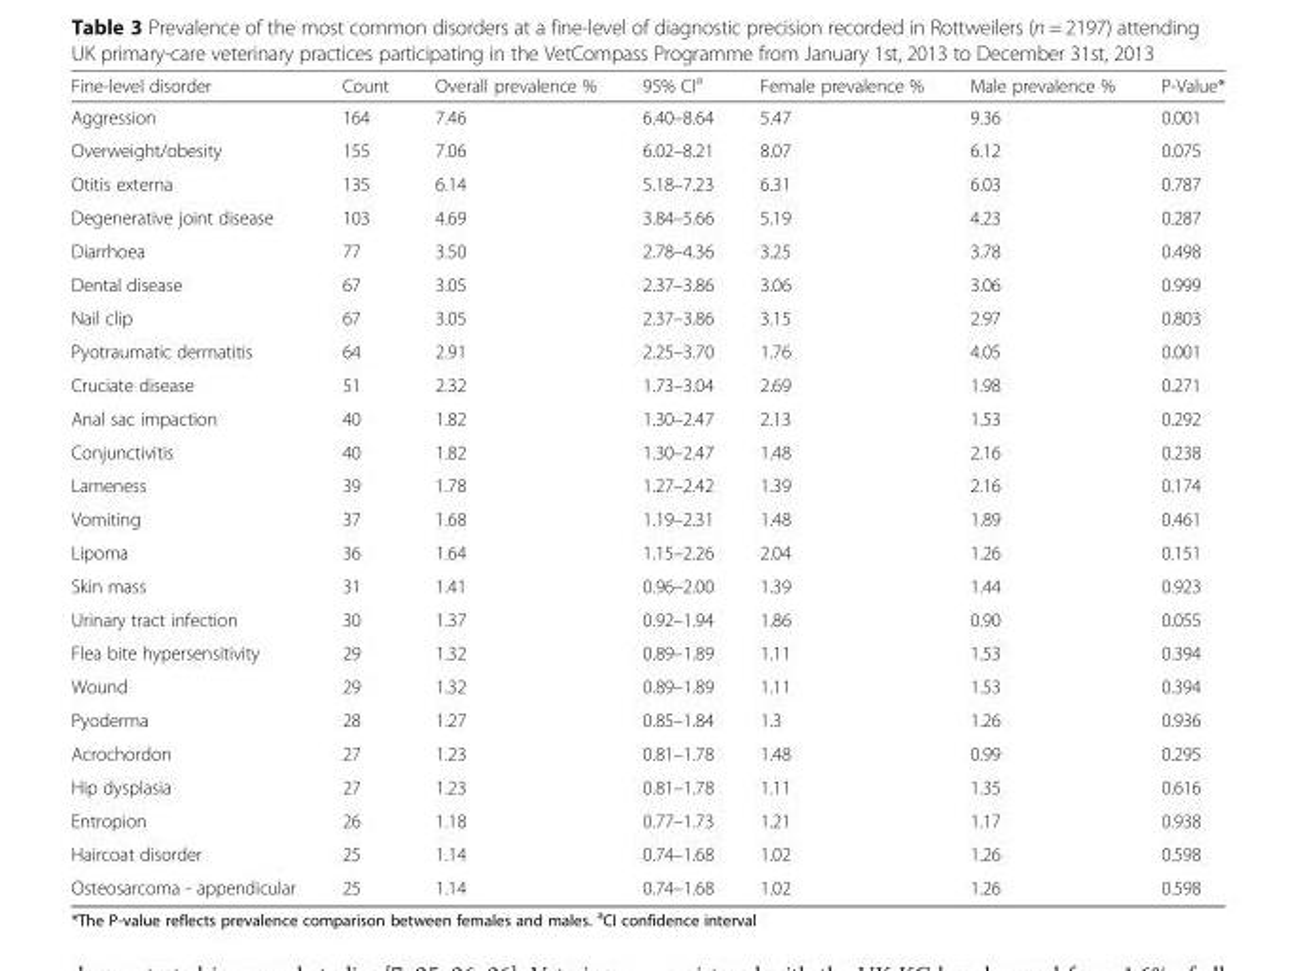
<table><thead><tr><td>Fine-level disorder</td><td>Count</td><td>Overall prevalence %</td><td>95% CI<sup>a</sup></td><td>Female prevalence %</td><td>Male prevalence %</td><td>P-Value*</td></tr></thead><tbody><tr><td>Aggression</td><td>164</td><td>7.46</td><td>6.40–8.64</td><td>5.47</td><td>9.36</td><td>0.001</td></tr><tr><td>Overweight/obesity</td><td>155</td><td>7.06</td><td>6.02–8.21</td><td>8.07</td><td>6.12</td><td>0.075</td></tr><tr><td>Otitis externa</td><td>135</td><td>6.14</td><td>5.18–7.23</td><td>6.31</td><td>6.03</td><td>0.787</td></tr><tr><td>Degenerative joint disease</td><td>103</td><td>4.69</td><td>3.84–5.66</td><td>5.19</td><td>4.23</td><td>0.287</td></tr><tr><td>Diarrhoea</td><td>77</td><td>3.50</td><td>2.78–4.36</td><td>3.25</td><td>3.78</td><td>0.498</td></tr><tr><td>Dental disease</td><td>67</td><td>3.05</td><td>2.37–3.86</td><td>3.06</td><td>3.06</td><td>0.999</td></tr><tr><td>Nail clip</td><td>67</td><td>3.05</td><td>2.37–3.86</td><td>3.15</td><td>2.97</td><td>0.803</td></tr><tr><td>Pyotraumatic dermatitis</td><td>64</td><td>2.91</td><td>2.25–3.70</td><td>1.76</td><td>4.05</td><td>0.001</td></tr><tr><td>Cruciate disease</td><td>51</td><td>2.32</td><td>1.73–3.04</td><td>2.69</td><td>1.98</td><td>0.271</td></tr><tr><td>Anal sac impaction</td><td>40</td><td>1.82</td><td>1.30–2.47</td><td>2.13</td><td>1.53</td><td>0.292</td></tr><tr><td>Conjunctivitis</td><td>40</td><td>1.82</td><td>1.30–2.47</td><td>1.48</td><td>2.16</td><td>0.238</td></tr><tr><td>Lameness</td><td>39</td><td>1.78</td><td>1.27–2.42</td><td>1.39</td><td>2.16</td><td>0.174</td></tr><tr><td>Vomiting</td><td>37</td><td>1.68</td><td>1.19–2.31</td><td>1.48</td><td>1.89</td><td>0.461</td></tr><tr><td>Lipoma</td><td>36</td><td>1.64</td><td>1.15–2.26</td><td>2.04</td><td>1.26</td><td>0.151</td></tr><tr><td>Skin mass</td><td>31</td><td>1.41</td><td>0.96–2.00</td><td>1.39</td><td>1.44</td><td>0.923</td></tr><tr><td>Urinary tract infection</td><td>30</td><td>1.37</td><td>0.92–1.94</td><td>1.86</td><td>0.90</td><td>0.055</td></tr><tr><td>Flea bite hypersensitivity</td><td>29</td><td>1.32</td><td>0.89–1.89</td><td>1.11</td><td>1.53</td><td>0.394</td></tr><tr><td>Wound</td><td>29</td><td>1.32</td><td>0.89–1.89</td><td>1.11</td><td>1.53</td><td>0.394</td></tr><tr><td>Pyoderma</td><td>28</td><td>1.27</td><td>0.85–1.84</td><td>1.3</td><td>1.26</td><td>0.936</td></tr><tr><td>Acrochordon</td><td>27</td><td>1.23</td><td>0.81–1.78</td><td>1.48</td><td>0.99</td><td>0.295</td></tr><tr><td>Hip dysplasia</td><td>27</td><td>1.23</td><td>0.81–1.78</td><td>1.11</td><td>1.35</td><td>0.616</td></tr><tr><td>Entropion</td><td>26</td><td>1.18</td><td>0.77–1.73</td><td>1.21</td><td>1.17</td><td>0.938</td></tr><tr><td>Haircoat disorder</td><td>25</td><td>1.14</td><td>0.74–1.68</td><td>1.02</td><td>1.26</td><td>0.598</td></tr><tr><td>Osteosarcoma - appendicular</td><td>25</td><td>1.14</td><td>0.74–1.68</td><td>1.02</td><td>1.26</td><td>0.598</td></tr></tbody></table>